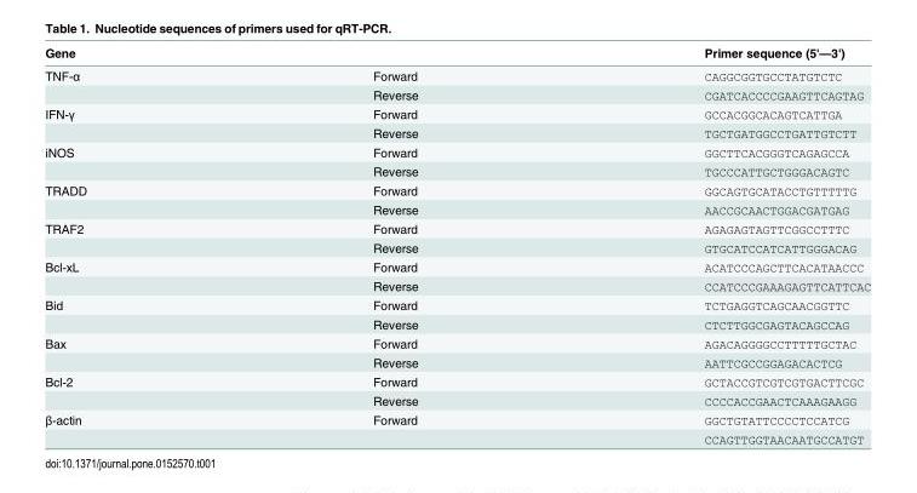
<table><thead><tr><td>Gene</td><td></td><td>Primer sequence (5&#x27;—3&#x27;)</td></tr></thead><tbody><tr><td rowspan="2">TNF-α</td><td>Forward</td><td>CAGGCGGTGCCTATGTCTC</td></tr><tr><td>Reverse</td><td>CGATCACCCCGAAGTTCAGTAG</td></tr><tr><td rowspan="2">IFN-γ</td><td>Forward</td><td>GCCACGGCACAGTCATTGA</td></tr><tr><td>Reverse</td><td>TGCTGATGGCCTGATTGTCTT</td></tr><tr><td rowspan="2">iNOS</td><td>Forward</td><td>GGCTTCACGGGTCAGAGCCA</td></tr><tr><td>Reverse</td><td>TGCCCATTGCTGGGACAGTC</td></tr><tr><td rowspan="2">TRADD</td><td>Forward</td><td>GGCAGTGCATACCTGTTTTTG</td></tr><tr><td>Reverse</td><td>AACCGCAACTGGACGATGAG</td></tr><tr><td rowspan="2">TRAF2</td><td>Forward</td><td>AGAGAGTAGTTCGGCCTTTC</td></tr><tr><td>Reverse</td><td>GTGCATCCATCATTGGGACAG</td></tr><tr><td rowspan="2">Bcl-xL</td><td>Forward</td><td>ACATCCCAGCTTCACATAACCC</td></tr><tr><td>Reverse</td><td>CCATCCCGAAAGAGTTCATTCAC</td></tr><tr><td rowspan="2">Bid</td><td>Forward</td><td>TCTGAGGTCAGCAACGGTTC</td></tr><tr><td>Reverse</td><td>CTCTTGGCGAGTACAGCCAG</td></tr><tr><td rowspan="2">Bax</td><td>Forward</td><td>AGACAGGGGCCTTTTTGCTAC</td></tr><tr><td>Reverse</td><td>AATTCGCCGGAGACACTCG</td></tr><tr><td rowspan="2">Bcl-2</td><td>Forward</td><td>GCTACCGTCGTCGTGACTTCGC</td></tr><tr><td>Reverse</td><td>CCCCACCGAACTCAAAGAAGG</td></tr><tr><td rowspan="2">β-actin</td><td>Forward</td><td>GGCTGTATTCCCCTCCATCG</td></tr><tr><td></td><td>CCAGTTGGTAACAATGCCATGT</td></tr></tbody></table>